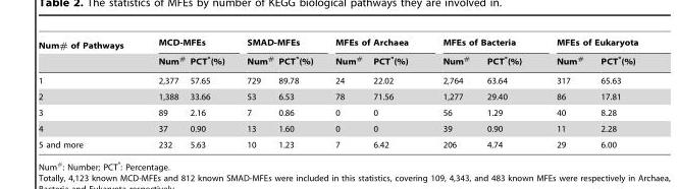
<table><thead><tr><td rowspan="2">Num# of Pathways</td><td colspan="2">MCD-MFEs</td><td colspan="2">SMAD-MFEs</td><td colspan="2">MFEs of Archaea</td><td colspan="2">MFEs of Bacteria</td><td colspan="2">MFEs of Eukaryota</td></tr><tr><td>Num<sup>#</sup></td><td>PCT*(%)</td><td>Num<sup>#</sup></td><td>PCT*(%)</td><td>Num<sup>#</sup></td><td>PCT*(%)</td><td>Num<sup>#</sup></td><td>PCT*(%)</td><td>Num<sup>#</sup></td><td>PCT*(%)</td></tr></thead><tbody><tr><td>1</td><td>2,377</td><td>57.65</td><td>729</td><td>89.78</td><td>24</td><td>22.02</td><td>2,764</td><td>63.64</td><td>317</td><td>65.63</td></tr><tr><td>2</td><td>1,388</td><td>33.66</td><td>53</td><td>6.53</td><td>78</td><td>71.56</td><td>1,277</td><td>29.40</td><td>86</td><td>17.81</td></tr><tr><td>3</td><td>89</td><td>2.16</td><td>7</td><td>0.86</td><td>0</td><td>0</td><td>56</td><td>1.29</td><td>40</td><td>8.28</td></tr><tr><td>4</td><td>37</td><td>0.90</td><td>13</td><td>1.60</td><td>0</td><td>0</td><td>39</td><td>0.90</td><td>11</td><td>2.28</td></tr><tr><td>5 and more</td><td>232</td><td>5.63</td><td>10</td><td>1.23</td><td>7</td><td>6.42</td><td>206</td><td>4.74</td><td>29</td><td>6.00</td></tr></tbody></table>